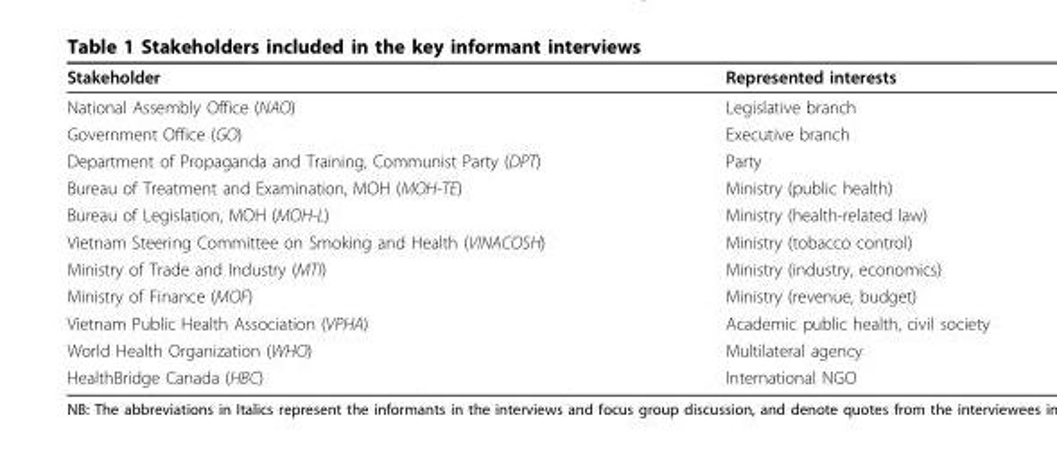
<table><thead><tr><td>Stakeholder</td><td>Represented interests</td></tr></thead><tbody><tr><td>National Assembly Office (NAO)</td><td>Legislative branch</td></tr><tr><td>Government Office (GO)</td><td>Executive branch</td></tr><tr><td>Department of Propaganda and Training, Communist Party (DPT)</td><td>Party</td></tr><tr><td>Bureau of Treatment and Examination, MOH (MOH-TE)</td><td>Ministry (public health)</td></tr><tr><td>Bureau of Legislation, MOH (MOH-L)</td><td>Ministry (health-related law)</td></tr><tr><td>Vietnam Steering Committee on Smoking and Health (VINACOSH)</td><td>Ministry (tobacco control)</td></tr><tr><td>Ministry of Trade and Industry (MTI)</td><td>Ministry (industry, economics)</td></tr><tr><td>Ministry of Finance (MOF)</td><td>Ministry (revenue, budget)</td></tr><tr><td>Vietnam Public Health Association (VPHA)</td><td>Academic public health, civil society</td></tr><tr><td>World Health Organization (WHO)</td><td>Multilateral agency</td></tr><tr><td>HealthBridge Canada (HBC)</td><td>International NGO</td></tr></tbody></table>